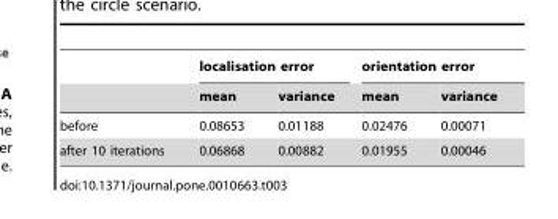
<table><thead><tr><td rowspan="2"></td><td colspan="2">localisation error</td><td colspan="2">orientation error</td></tr><tr><td>mean</td><td>variance</td><td>mean</td><td>variance</td></tr></thead><tbody><tr><td>before</td><td>0.08653</td><td>0.01188</td><td>0.02476</td><td>0.00071</td></tr><tr><td>after 10 iterations</td><td>0.06868</td><td>0.00882</td><td>0.01955</td><td>0.00046</td></tr></tbody></table>